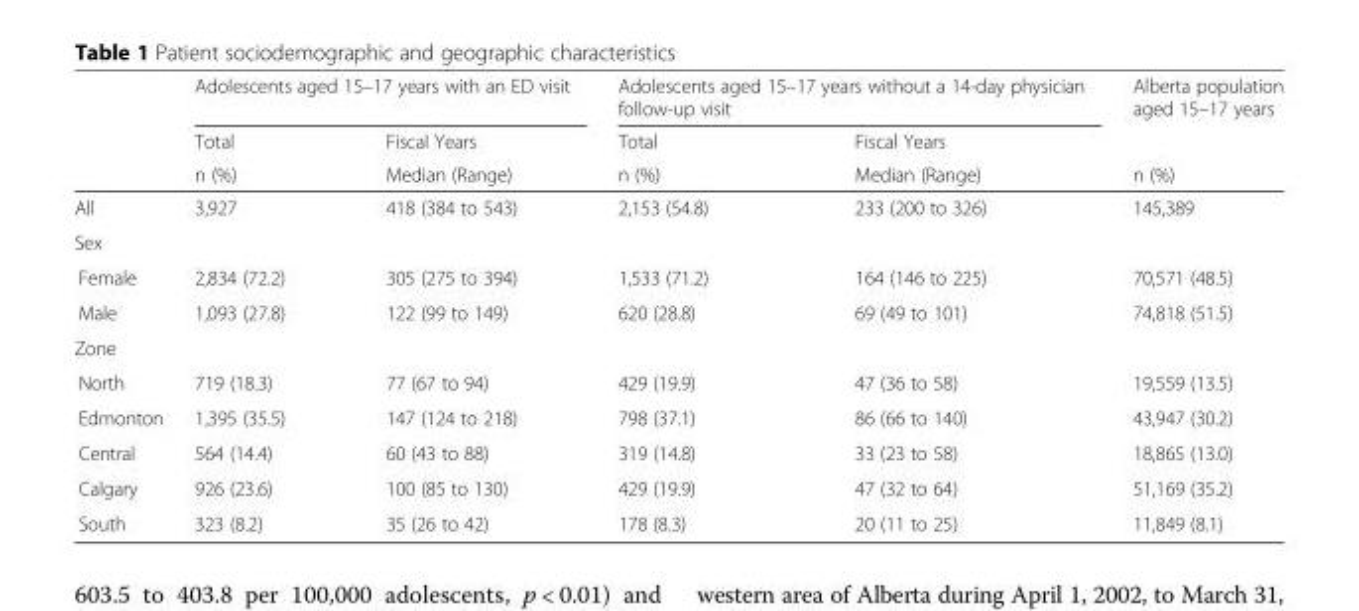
<table><thead><tr><td rowspan="3"></td><td colspan="2">Adolescents aged 15–17 years with an ED visit</td><td colspan="2">Adolescents aged 15–17 years without a 14-day physician follow-up visit</td><td rowspan="3">Alberta population aged 15–17 years n (%)</td></tr><tr><td rowspan="2">Total n (%)</td><td rowspan="2">Fiscal Years Median (Range)</td><td rowspan="2">Total n (%)</td><td rowspan="2">Fiscal Years Median (Range)</td></tr><tr></tr></thead><tbody><tr><td>All</td><td>3,927</td><td>418 (384 to 543)</td><td>2,153 (54.8)</td><td>233 (200 to 326)</td><td>145,389</td></tr><tr><td colspan="6">Sex</td></tr><tr><td>Female</td><td>2,834 (72.2)</td><td>305 (275 to 394)</td><td>1,533 (71.2)</td><td>164 (146 to 225)</td><td>70,571 (48.5)</td></tr><tr><td>Male</td><td>1,093 (27.8)</td><td>122 (99 to 149)</td><td>620 (28.8)</td><td>69 (49 to 101)</td><td>74,818 (51.5)</td></tr><tr><td colspan="6">Zone</td></tr><tr><td>North</td><td>719 (18.3)</td><td>77 (67 to 94)</td><td>429 (19.9)</td><td>47 (36 to 58)</td><td>19,559 (13.5)</td></tr><tr><td>Edmonton</td><td>1,395 (35.5)</td><td>147 (124 to 218)</td><td>798 (37.1)</td><td>86 (66 to 140)</td><td>43,947 (30.2)</td></tr><tr><td>Central</td><td>564 (14.4)</td><td>60 (43 to 88)</td><td>319 (14.8)</td><td>33 (23 to 58)</td><td>18,865 (13.0)</td></tr><tr><td>Calgary</td><td>926 (23.6)</td><td>100 (85 to 130)</td><td>429 (19.9)</td><td>47 (32 to 64)</td><td>51,169 (35.2)</td></tr><tr><td>South</td><td>323 (8.2)</td><td>35 (26 to 42)</td><td>178 (8.3)</td><td>20 (11 to 25)</td><td>11,849 (8.1)</td></tr></tbody></table>